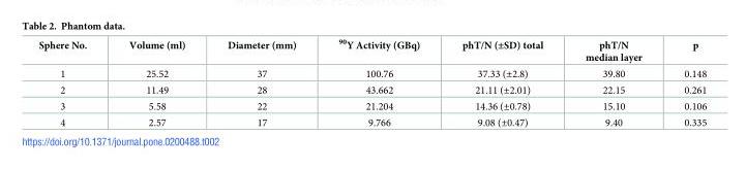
<table><thead><tr><td>Sphere No.</td><td>Volume (ml)</td><td>Diameter (mm)</td><td><sup>90</sup>Y Activity (GBq)</td><td>phT/N (±SD) total</td><td>phT/N median layer</td><td>p</td></tr></thead><tbody><tr><td>1</td><td>25.52</td><td>37</td><td>100.76</td><td>37.33 (±2.8)</td><td>39.80</td><td>0.148</td></tr><tr><td>2</td><td>11.49</td><td>28</td><td>43.662</td><td>21.11 (±2.01)</td><td>22.15</td><td>0.261</td></tr><tr><td>3</td><td>5.58</td><td>22</td><td>21.204</td><td>14.36 (±0.78)</td><td>15.10</td><td>0.106</td></tr><tr><td>4</td><td>2.57</td><td>17</td><td>9.766</td><td>9.08 (±0.47)</td><td>9.40</td><td>0.335</td></tr></tbody></table>